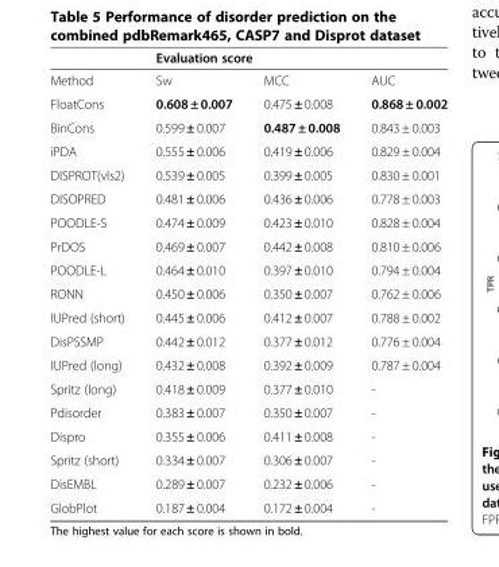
<table><thead><tr><td rowspan="2">Method</td><td colspan="3">Evaluation score</td></tr><tr><td>Sw</td><td>MCC</td><td>AUC</td></tr></thead><tbody><tr><td>FloatCons</td><td>0.608 ± 0.007</td><td>0.475 ± 0.008</td><td>0.868 ± 0.002</td></tr><tr><td>BinCons</td><td>0.599 ± 0.007</td><td>0.487 ± 0.008</td><td>0.843 ± 0.003</td></tr><tr><td>iPDA</td><td>0.555 ± 0.006</td><td>0.419 ± 0.006</td><td>0.829 ± 0.004</td></tr><tr><td>DISPROT(vls2)</td><td>0.539 ± 0.005</td><td>0.399 ± 0.005</td><td>0.830 ± 0.001</td></tr><tr><td>DISOPRED</td><td>0.481 ± 0.006</td><td>0.436 ± 0.006</td><td>0.778 ± 0.003</td></tr><tr><td>POODLE-S</td><td>0.474 ± 0.009</td><td>0.423 ± 0.010</td><td>0.828 ± 0.004</td></tr><tr><td>PrDOS</td><td>0.469 ± 0.007</td><td>0.442 ± 0.008</td><td>0.810 ± 0.006</td></tr><tr><td>POODLE-L</td><td>0.464 ± 0.010</td><td>0.397 ± 0.010</td><td>0.794 ± 0.004</td></tr><tr><td>RONN</td><td>0.450 ± 0.006</td><td>0.350 ± 0.007</td><td>0.762 ± 0.006</td></tr><tr><td>IUPred (short)</td><td>0.445 ± 0.006</td><td>0.412 ± 0.007</td><td>0.788 ± 0.002</td></tr><tr><td>DisPSSMP</td><td>0.442 ± 0.012</td><td>0.377 ± 0.012</td><td>0.776 ± 0.004</td></tr><tr><td>IUPred (long)</td><td>0.432 ± 0.008</td><td>0.392 ± 0.009</td><td>0.787 ± 0.004</td></tr><tr><td>Spritz (long)</td><td>0.418 ± 0.009</td><td>0.377 ± 0.010</td><td>-</td></tr><tr><td>Pdisorder</td><td>0.383 ± 0.007</td><td>0.350 ± 0.007</td><td>-</td></tr><tr><td>Dispro</td><td>0.355 ± 0.006</td><td>0.411 ± 0.008</td><td>-</td></tr><tr><td>Spritz (short)</td><td>0.334 ± 0.007</td><td>0.306 ± 0.007</td><td>-</td></tr><tr><td>DisEMBL</td><td>0.289 ± 0.007</td><td>0.232 ± 0.006</td><td>-</td></tr><tr><td>GlobPlot</td><td>0.187 ± 0.004</td><td>0.172 ± 0.004</td><td>-</td></tr></tbody></table>